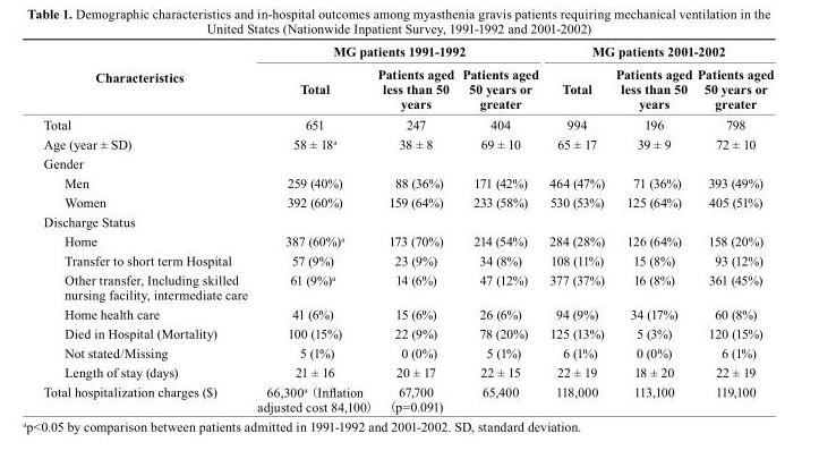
<table><thead><tr><td rowspan="2">characteristics</td><td colspan="3">MG patients 1991-1992</td><td colspan="3">MG patients 2001-2002</td></tr><tr><td>total</td><td>Patients aged less than 50 years</td><td>Patients aged 50 years or greater</td><td>total</td><td>Patients aged less than 50 years</td><td>Patients aged 50 years or greater</td></tr></thead><tbody><tr><td>Total</td><td>651</td><td>247</td><td>404</td><td>994</td><td>196</td><td>798</td></tr><tr><td>Age (year ± SD)</td><td>58 ± 18<sup>a</sup></td><td>38 ± 8</td><td>69 ± 10</td><td>65 ± 17</td><td>39 ± 9</td><td>72 ± 10</td></tr><tr><td colspan="7">Gender</td></tr><tr><td>Men</td><td>259 (40%)</td><td>88 (36%)</td><td>171 (42%)</td><td>464 (47%)</td><td>71 (36%)</td><td>393 (49%)</td></tr><tr><td>Women</td><td>392 (60%)</td><td>159 (64%)</td><td>233 (58%)</td><td>530 (53%)</td><td>125 (64%)</td><td>405 (51%)</td></tr><tr><td colspan="7">Discharge Status</td></tr><tr><td>Home</td><td>387 (60%)<sup>a</sup></td><td>173 (70%)</td><td>214 (54%)</td><td>284 (28%)</td><td>126 (64%)</td><td>158 (20%)</td></tr><tr><td>Transfer to short term Hospital</td><td>57 (9%)</td><td>23 (9%)</td><td>34 (8%)</td><td>108 (11%)</td><td>15 (8%)</td><td>93 (12%)</td></tr><tr><td>Other transfer, Including skilled nursing facility, intermediate care</td><td>61 (9%)<sup>a</sup></td><td>14 (6%)</td><td>47 (12%)</td><td>377 (37%)</td><td>16 (8%)</td><td>361 (45%)</td></tr><tr><td>Home health care</td><td>41 (6%)</td><td>15 (6%)</td><td>26 (6%)</td><td>94 (9%)</td><td>34 (17%)</td><td>60 (8%)</td></tr><tr><td>Died in Hospital (Mortality)</td><td>100 (15%)</td><td>22 (9%)</td><td>78 (20%)</td><td>125 (13%)</td><td>5 (3%)</td><td>120 (15%)</td></tr><tr><td>Not stated/Missing</td><td>5 (1%)</td><td>0 (0%)</td><td>5 (1%)</td><td>6 (1%)</td><td>0 (0%)</td><td>6 (1%)</td></tr><tr><td>Length of stay (days)</td><td>21 ± 16</td><td>20 ± 17</td><td>22 ± 15</td><td>22 ± 19</td><td>18 ± 20</td><td>22 ± 19</td></tr><tr><td>Total hospitalization charges ($)</td><td>66,300<sup>a</sup> (Inflation adjusted cost 84,100)</td><td>67,700 (p=0.091)</td><td>65,400</td><td>118,000</td><td>113,100</td><td>119,100</td></tr></tbody></table>